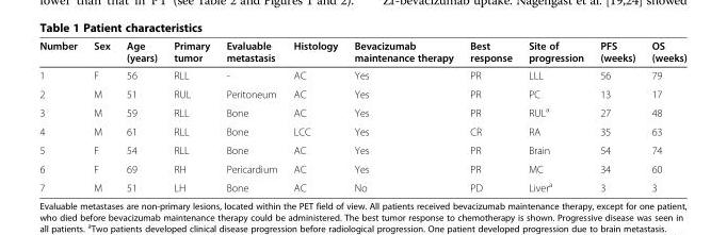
<table><thead><tr><td>Number</td><td>Sex</td><td>Age (years)</td><td>Primary tumor</td><td>Evaluable metastasis</td><td>Histology</td><td>Bevacizumab maintenance therapy</td><td>Best response</td><td>Site of progression</td><td>PFS (weeks)</td><td>OS (weeks)</td></tr></thead><tbody><tr><td>1</td><td>F</td><td>56</td><td>RLL</td><td>-</td><td>AC</td><td>Yes</td><td>PR</td><td>LLL</td><td>56</td><td>79</td></tr><tr><td>2</td><td>M</td><td>51</td><td>RUL</td><td>Peritoneum</td><td>AC</td><td>Yes</td><td>PR</td><td>PC</td><td>13</td><td>17</td></tr><tr><td>3</td><td>M</td><td>59</td><td>RLL</td><td>Bone</td><td>AC</td><td>Yes</td><td>PR</td><td>RUL<sup>a</sup></td><td>27</td><td>48</td></tr><tr><td>4</td><td>M</td><td>61</td><td>RLL</td><td>Bone</td><td>LCC</td><td>Yes</td><td>CR</td><td>RA</td><td>35</td><td>63</td></tr><tr><td>5</td><td>F</td><td>54</td><td>RLL</td><td>Bone</td><td>AC</td><td>Yes</td><td>PR</td><td>Brain</td><td>54</td><td>74</td></tr><tr><td>6</td><td>F</td><td>69</td><td>RH</td><td>Pericardium</td><td>AC</td><td>Yes</td><td>PR</td><td>MC</td><td>34</td><td>60</td></tr><tr><td>7</td><td>M</td><td>51</td><td>LH</td><td>Bone</td><td>AC</td><td>No</td><td>PD</td><td>Liver<sup>a</sup></td><td>3</td><td>3</td></tr></tbody></table>